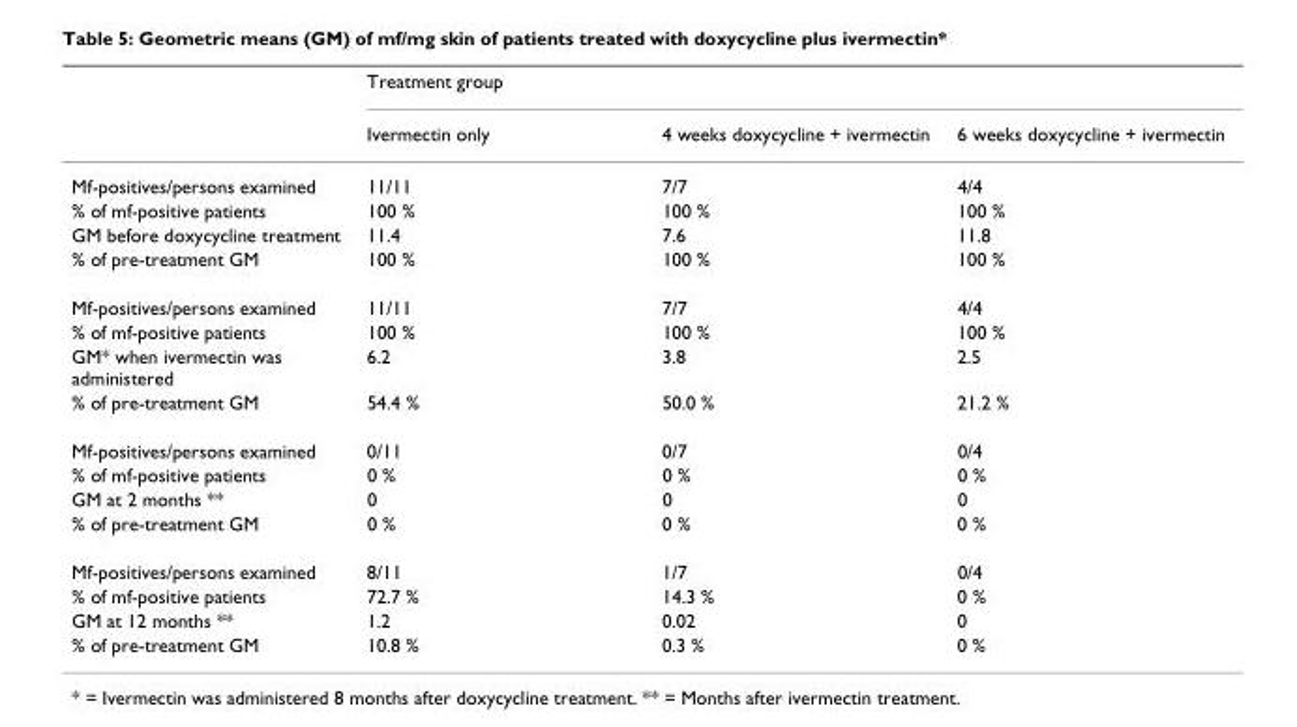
<table><thead><tr><td rowspan="2"></td><td rowspan="2">Treatment group Ivermectin only</td><td rowspan="2">4 weeks doxycycline + ivermectin</td><td rowspan="2">6 weeks doxycycline + ivermectin</td></tr><tr></tr></thead><tbody><tr><td>Mf-positives/persons examined</td><td>11/11</td><td>7/7</td><td>4/4</td></tr><tr><td>% of mf-positive patients</td><td>100 %</td><td>100 %</td><td>100 %</td></tr><tr><td>GM before doxycycline treatment</td><td>11.4</td><td>7.6</td><td>11.8</td></tr><tr><td>% of pre-treatment GM</td><td>100 %</td><td>100 %</td><td>100 %</td></tr><tr><td>Mf-positives/persons examined</td><td>11/11</td><td>7/7</td><td>4/4</td></tr><tr><td>% of mf-positive patients</td><td>100 %</td><td>100 %</td><td>100 %</td></tr><tr><td>GM* when ivermectin was administered</td><td>6.2</td><td>3.8</td><td>2.5</td></tr><tr><td>% of pre-treatment GM</td><td>54.4 %</td><td>50.0 %</td><td>21.2 %</td></tr><tr><td>Mf-positives/persons examined</td><td>0/11</td><td>0/7</td><td>0/4</td></tr><tr><td>% of mf-positive patients</td><td>0 %</td><td>0 %</td><td>0 %</td></tr><tr><td>GM at 2 months **</td><td>0</td><td>0</td><td>0</td></tr><tr><td>% of pre-treatment GM</td><td>0 %</td><td>0 %</td><td>0 %</td></tr><tr><td>Mf-positives/persons examined</td><td>8/11</td><td>1/7</td><td>0/4</td></tr><tr><td>% of mf-positive patients</td><td>72.7 %</td><td>14.3 %</td><td>0 %</td></tr><tr><td>GM at 12 months **</td><td>1.2</td><td>0.02</td><td>0</td></tr><tr><td>% of pre-treatment GM</td><td>10.8 %</td><td>0.3 %</td><td>0 %</td></tr></tbody></table>